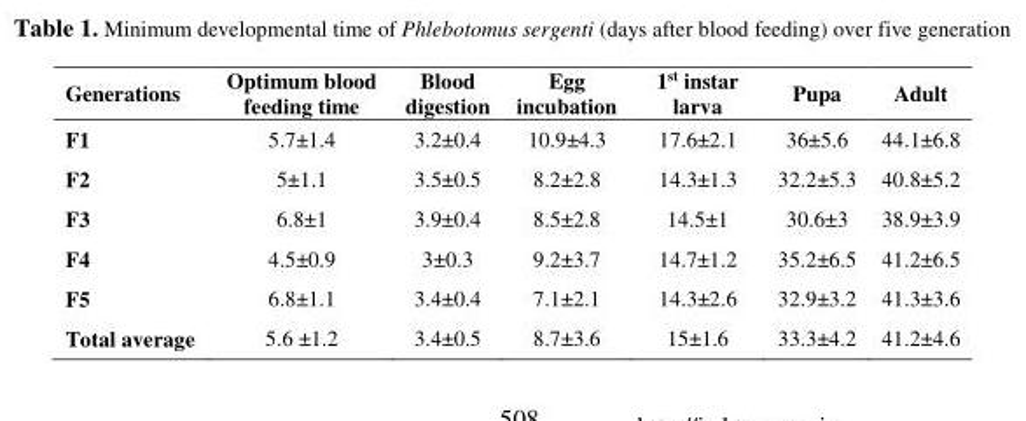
<table><thead><tr><td>Generations</td><td>Optimum blood feeding time</td><td>Blood digestion</td><td>Egg incubation</td><td>1<sup>st</sup> instar larva</td><td>Pupa</td><td>Adult</td></tr></thead><tbody><tr><td>F1</td><td>5.7±1.4</td><td>3.2±0.4</td><td>10.9±4.3</td><td>17.6±2.1</td><td>36±5.6</td><td>44.1±6.8</td></tr><tr><td>F2</td><td>5±1.1</td><td>3.5±0.5</td><td>8.2±2.8</td><td>14.3±1.3</td><td>32.2±5.3</td><td>40.8±5.2</td></tr><tr><td>F3</td><td>6.8±1</td><td>3.9±0.4</td><td>8.5±2.8</td><td>14.5±1</td><td>30.6±3</td><td>38.9±3.9</td></tr><tr><td>F4</td><td>4.5±0.9</td><td>3±0.3</td><td>9.2±3.7</td><td>14.7±1.2</td><td>35.2±6.5</td><td>41.2±6.5</td></tr><tr><td>F5</td><td>6.8±1.1</td><td>3.4±0.4</td><td>7.1±2.1</td><td>14.3±2.6</td><td>32.9±3.2</td><td>41.3±3.6</td></tr><tr><td>Total average</td><td>5.6 ±1.2</td><td>3.4±0.5</td><td>8.7±3.6</td><td>15±1.6</td><td>33.3±4.2</td><td>41.2±4.6</td></tr></tbody></table>